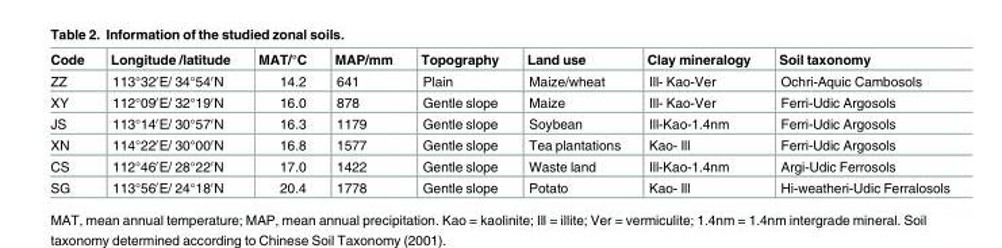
<table><thead><tr><td>Code</td><td>Longitude /latitude</td><td>MAT/°C</td><td>MAP/mm</td><td>Topography</td><td>Land use</td><td>Clay mineralogy</td><td>Soil taxonomy</td></tr></thead><tbody><tr><td>ZZ</td><td>113°32′E/ 34°54′N</td><td>14.2</td><td>641</td><td>Plain</td><td>Maize/wheat</td><td>Ill- Kao-Ver</td><td>Ochri-Aquic Cambosols</td></tr><tr><td>XY</td><td>112°09′E/ 32°19′N</td><td>16.0</td><td>878</td><td>Gentle slope</td><td>Maize</td><td>Ill- Kao-Ver</td><td>Ferri-Udic Argosols</td></tr><tr><td>JS</td><td>113°14′E/ 30°57′N</td><td>16.3</td><td>1179</td><td>Gentle slope</td><td>Soybean</td><td>Ill-Kao-1.4nm</td><td>Ferri-Udic Argosols</td></tr><tr><td>XN</td><td>114°22′E/ 30°00′N</td><td>16.8</td><td>1577</td><td>Gentle slope</td><td>Tea plantations</td><td>Kao- Ill</td><td>Ferri-Udic Argosols</td></tr><tr><td>CS</td><td>112°46′E/ 28°22′N</td><td>17.0</td><td>1422</td><td>Gentle slope</td><td>Waste land</td><td>Ill-Kao-1.4nm</td><td>Argi-Udic Ferrosols</td></tr><tr><td>SG</td><td>113°56′E/ 24°18′N</td><td>20.4</td><td>1778</td><td>Gentle slope</td><td>Potato</td><td>Kao- Ill</td><td>Hi-weatheri-Udic Ferralosols</td></tr></tbody></table>